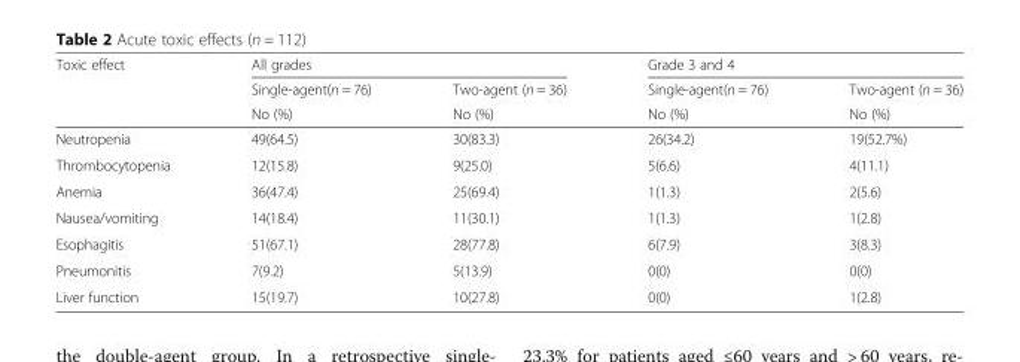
<table><thead><tr><td rowspan="3">Toxic effect</td><td colspan="2">All grades</td><td colspan="2">Grade 3 and 4</td></tr><tr><td rowspan="2">Single-agent(n = 76) No (%)</td><td rowspan="2">Two-agent (n = 36) No (%)</td><td rowspan="2">Single-agent(n = 76) No (%)</td><td rowspan="2">Two-agent (n = 36) No (%)</td></tr><tr></tr></thead><tbody><tr><td>Neutropenia</td><td>49(64.5)</td><td>30(83.3)</td><td>26(34.2)</td><td>19(52.7%)</td></tr><tr><td>Thrombocytopenia</td><td>12(15.8)</td><td>9(25.0)</td><td>5(6.6)</td><td>4(11.1)</td></tr><tr><td>Anemia</td><td>36(47.4)</td><td>25(69.4)</td><td>1(1.3)</td><td>2(5.6)</td></tr><tr><td>Nausea/vomiting</td><td>14(18.4)</td><td>11(30.1)</td><td>1(1.3)</td><td>1(2.8)</td></tr><tr><td>Esophagitis</td><td>51(67.1)</td><td>28(77.8)</td><td>6(7.9)</td><td>3(8.3)</td></tr><tr><td>Pneumonitis</td><td>7(9.2)</td><td>5(13.9)</td><td>0(0)</td><td>0(0)</td></tr><tr><td>Liver function</td><td>15(19.7)</td><td>10(27.8)</td><td>0(0)</td><td>1(2.8)</td></tr></tbody></table>